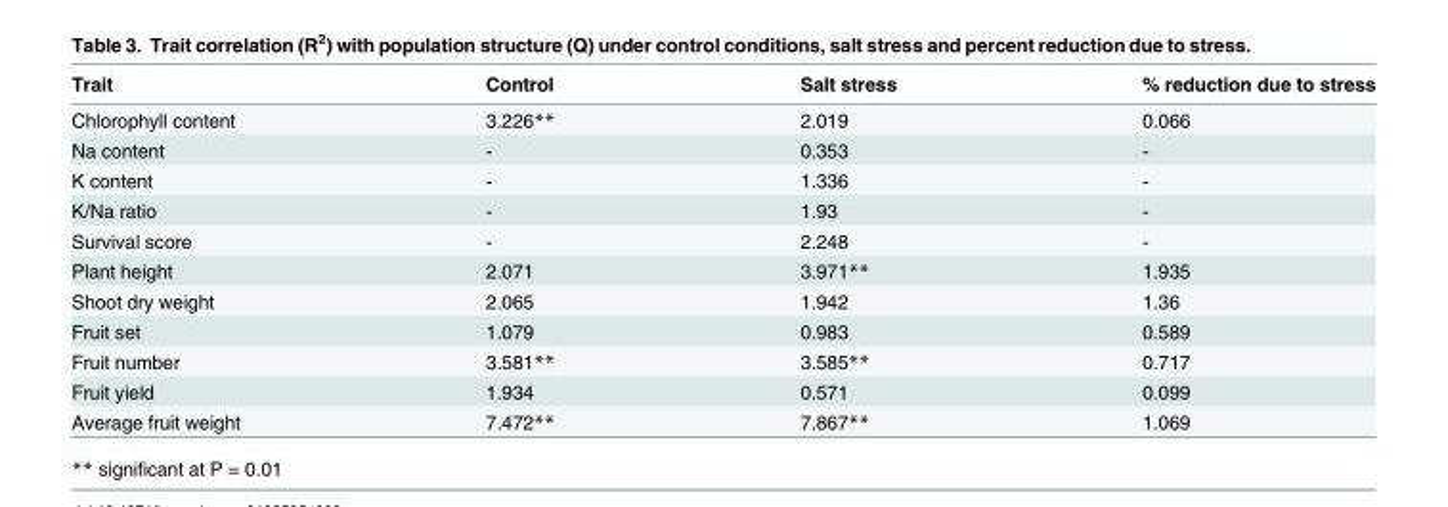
<table><thead><tr><td>Trait</td><td>Control</td><td>Salt stress</td><td>% reduction due to stress</td></tr></thead><tbody><tr><td>Chlorophyll content</td><td>3.226**</td><td>2.019</td><td>0.066</td></tr><tr><td>Na content</td><td>-</td><td>0.353</td><td>-</td></tr><tr><td>K content</td><td>-</td><td>1.336</td><td>-</td></tr><tr><td>K/Na ratio</td><td>-</td><td>1.93</td><td>-</td></tr><tr><td>Survival score</td><td>-</td><td>2.248</td><td>-</td></tr><tr><td>Plant height</td><td>2.071</td><td>3.971**</td><td>1.935</td></tr><tr><td>Shoot dry weight</td><td>2.065</td><td>1.942</td><td>1.36</td></tr><tr><td>Fruit set</td><td>1.079</td><td>0.983</td><td>0.589</td></tr><tr><td>Fruit number</td><td>3.581**</td><td>3.585**</td><td>0.717</td></tr><tr><td>Fruit yield</td><td>1.934</td><td>0.571</td><td>0.099</td></tr><tr><td>Average fruit weight</td><td>7.472**</td><td>7.867**</td><td>1.069</td></tr></tbody></table>